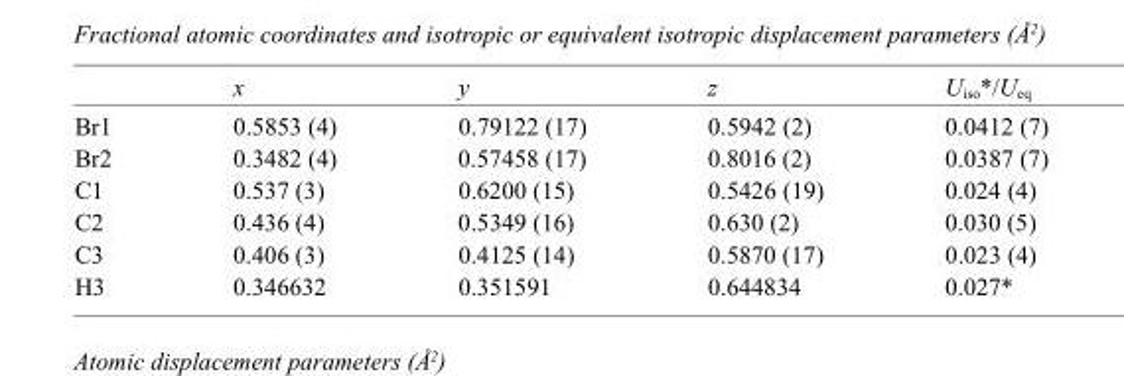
<table><thead><tr><td></td><td>x</td><td>y</td><td>z</td><td>U<sub>iso</sub>*/U<sub>eq</sub></td></tr></thead><tbody><tr><td>Br1</td><td>0.5853 (4)</td><td>0.79122 (17)</td><td>0.5942 (2)</td><td>0.0412 (7)</td></tr><tr><td>Br2</td><td>0.3482 (4)</td><td>0.57458 (17)</td><td>0.8016 (2)</td><td>0.0387 (7)</td></tr><tr><td>C1</td><td>0.537 (3)</td><td>0.6200 (15)</td><td>0.5426 (19)</td><td>0.024 (4)</td></tr><tr><td>C2</td><td>0.436 (4)</td><td>0.5349 (16)</td><td>0.630 (2)</td><td>0.030 (5)</td></tr><tr><td>C3</td><td>0.406 (3)</td><td>0.4125 (14)</td><td>0.5870 (17)</td><td>0.023 (4)</td></tr><tr><td>H3</td><td>0.346632</td><td>0.351591</td><td>0.644834</td><td>0.027*</td></tr></tbody></table>